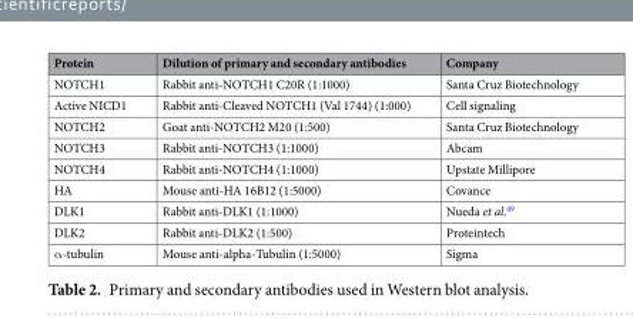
<table><thead><tr><td>Protein</td><td>Dilution of primary and secondary antibodies</td><td>Company</td></tr></thead><tbody><tr><td>NOTCH1</td><td>Rabbit anti-NOTCH1 C20R (1:1000)</td><td>Santa Cruz Biotechnology</td></tr><tr><td>Active NICD1</td><td>Rabbit anti-Cleaved NOTCH1 (Val 1744) (1:000)</td><td>Cell signaling</td></tr><tr><td>NOTCH2</td><td>Goat anti-NOTCH2 M20 (1:500)</td><td>Santa Cruz Biotechnology</td></tr><tr><td>NOTCH3</td><td>Rabbit anti-NOTCH3 (1:1000)</td><td>Abcam</td></tr><tr><td>NOTCH4</td><td>Rabbit anti-NOTCH4 (1:1000)</td><td>Upstate Millipore</td></tr><tr><td>HA</td><td>Mouse anti-HA 16B12 (1:5000)</td><td>Covance</td></tr><tr><td>DLK1</td><td>Rabbit anti-DLK1 (1:1000)</td><td>Nueda et al.<sup>49</sup></td></tr><tr><td>DLK2</td><td>Rabbit anti-DLK2 (1:500)</td><td>Proteintech</td></tr><tr><td>α-tubulin</td><td>Mouse anti-alpha-Tubulin (1:5000)</td><td>Sigma</td></tr></tbody></table>